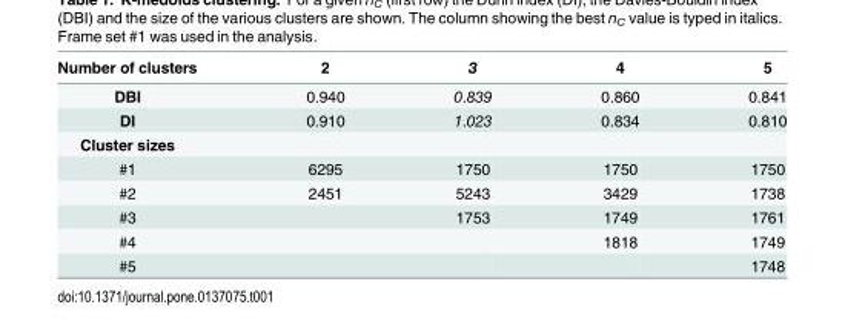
<table><thead><tr><td>Number of clusters</td><td>2</td><td>3</td><td>4</td><td>5</td></tr></thead><tbody><tr><td>DBI</td><td>0.940</td><td>0.839</td><td>0.860</td><td>0.841</td></tr><tr><td>DI</td><td>0.910</td><td>1.023</td><td>0.834</td><td>0.810</td></tr><tr><td colspan="5">Cluster sizes</td></tr><tr><td>#1</td><td>6295</td><td>1750</td><td>1750</td><td>1750</td></tr><tr><td>#2</td><td>2451</td><td>5243</td><td>3429</td><td>1738</td></tr><tr><td>#3</td><td></td><td>1753</td><td>1749</td><td>1761</td></tr><tr><td>#4</td><td></td><td></td><td>1818</td><td>1749</td></tr><tr><td>#5</td><td></td><td></td><td></td><td>1748</td></tr></tbody></table>